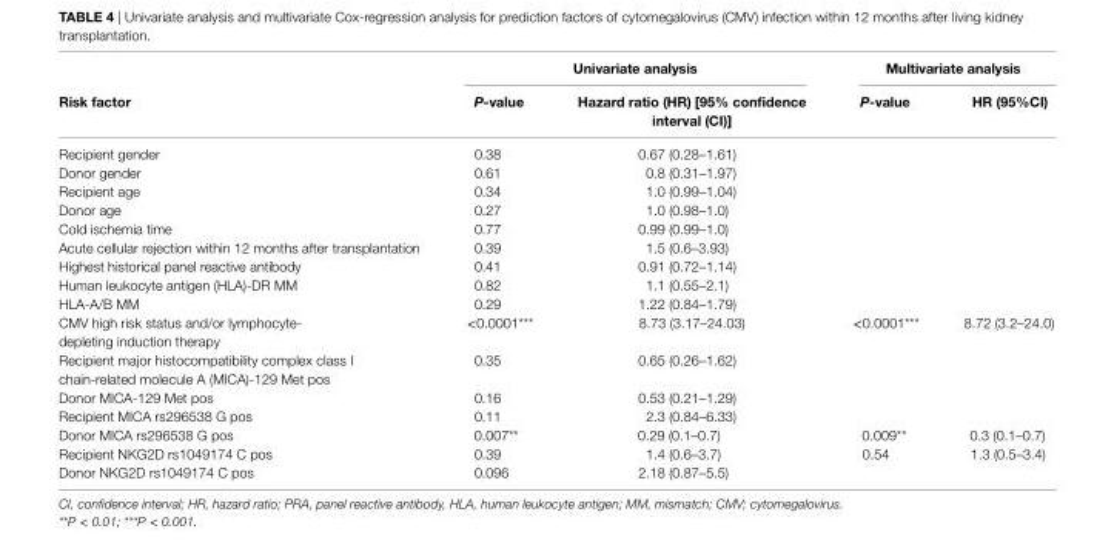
<table><thead><tr><td rowspan="2">risk factor</td><td colspan="2">Univariate analysis</td><td colspan="2">Multivariate analysis</td></tr><tr><td>P-value</td><td>hazard ratio (hr) [95% confidence interval (ci)]</td><td>P-value</td><td>hr (95%ci)</td></tr></thead><tbody><tr><td>Recipient gender</td><td>0.38</td><td>0.67 (0.28–1.61)</td><td></td><td></td></tr><tr><td>Donor gender</td><td>0.61</td><td>0.8 (0.31–1.97)</td><td></td><td></td></tr><tr><td>Recipient age</td><td>0.34</td><td>1.0 (0.99–1.04)</td><td></td><td></td></tr><tr><td>Donor age</td><td>0.27</td><td>1.0 (0.98–1.0)</td><td></td><td></td></tr><tr><td>Cold ischemia time</td><td>0.77</td><td>0.99 (0.99–1.0)</td><td></td><td></td></tr><tr><td>Acute cellular rejection within 12 months after transplantation</td><td>0.39</td><td>1.5 (0.6–3.93)</td><td></td><td></td></tr><tr><td>Highest historical panel reactive antibody</td><td>0.41</td><td>0.91 (0.72–1.14)</td><td></td><td></td></tr><tr><td>Human leukocyte antigen (HLA)-DR MM</td><td>0.82</td><td>1.1 (0.55–2.1)</td><td></td><td></td></tr><tr><td>HLA-A/B MM</td><td>0.29</td><td>1.22 (0.84–1.79)</td><td></td><td></td></tr><tr><td>CMV high risk status and/or lymphocyte- depleting induction therapy</td><td>&lt;0.0001***</td><td>8.73 (3.17–24.03)</td><td>&lt;0.0001***</td><td>8.72 (3.2–24.0)</td></tr><tr><td>Recipient major histocompatibility complex class I chain-related molecule A (MICA)-129 Met pos</td><td>0.35</td><td>0.65 (0.26–1.62)</td><td></td><td></td></tr><tr><td>Donor MICA-129 Met pos</td><td>0.16</td><td>0.53 (0.21–1.29)</td><td></td><td></td></tr><tr><td>Recipient MICA rs296538 G pos</td><td>0.11</td><td>2.3 (0.84–6.33)</td><td></td><td></td></tr><tr><td>Donor MICA rs296538 G pos</td><td>0.007**</td><td>0.29 (0.1–0.7)</td><td>0.009**</td><td>0.3 (0.1–0.7)</td></tr><tr><td>Recipient NKG2D rs1049174 C pos</td><td>0.39</td><td>1.4 (0.6–3.7)</td><td>0.54</td><td>1.3 (0.5–3.4)</td></tr><tr><td>Donor NKG2D rs1049174 C pos</td><td>0.096</td><td>2.18 (0.87–5.5)</td><td></td><td></td></tr></tbody></table>